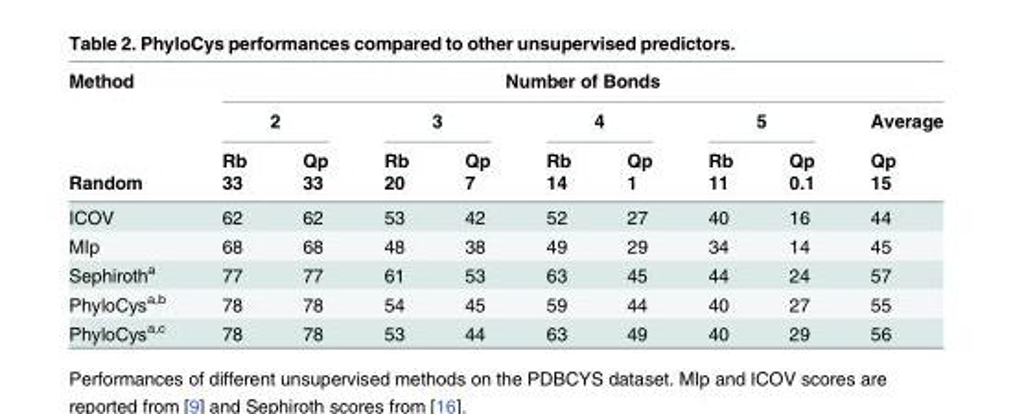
<table><thead><tr><td rowspan="4">Method Random</td><td colspan="9">Number of Bonds</td></tr><tr><td colspan="2">2</td><td colspan="2">3</td><td colspan="2">4</td><td colspan="2">5</td><td rowspan="3">Average Qp 15</td></tr><tr><td rowspan="2">Rb 33</td><td rowspan="2">Qp 33</td><td rowspan="2">Rb 20</td><td rowspan="2">Qp 7</td><td rowspan="2">Rb 14</td><td rowspan="2">Qp 1</td><td rowspan="2">Rb 11</td><td rowspan="2">Qp 0.1</td></tr><tr></tr></thead><tbody><tr><td>ICOV</td><td>62</td><td>62</td><td>53</td><td>42</td><td>52</td><td>27</td><td>40</td><td>16</td><td>44</td></tr><tr><td>MIp</td><td>68</td><td>68</td><td>48</td><td>38</td><td>49</td><td>29</td><td>34</td><td>14</td><td>45</td></tr><tr><td>Sephiroth<sup>a</sup></td><td>77</td><td>77</td><td>61</td><td>53</td><td>63</td><td>45</td><td>44</td><td>24</td><td>57</td></tr><tr><td>PhyloCys<sup>a,b</sup></td><td>78</td><td>78</td><td>54</td><td>45</td><td>59</td><td>44</td><td>40</td><td>27</td><td>55</td></tr><tr><td>PhyloCys<sup>a,c</sup></td><td>78</td><td>78</td><td>53</td><td>44</td><td>63</td><td>49</td><td>40</td><td>29</td><td>56</td></tr></tbody></table>